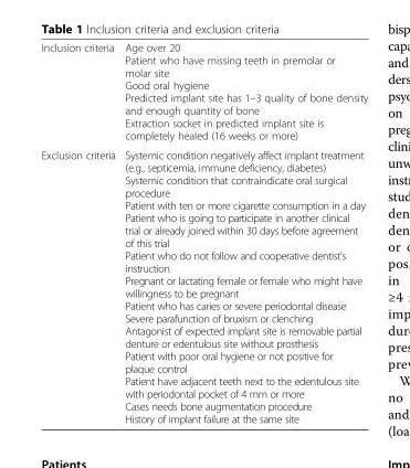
<table><tbody><tr><td>Inclusion criteria</td><td>Age over 20 Patient who have missing teeth in premolar or molar site Good oral hygiene Predicted implant site has 1–3 quality of bone density and enough quantity of bone Extraction socket in predicted implant site is completely healed (16 weeks or more)</td></tr><tr><td>Exclusion criteria</td><td>Systemic condition negatively affect implant treatment (e.g., septicemia, immune deficiency, diabetes) Systemic condition that contraindicate oral surgical procedure Patient with ten or more cigarette consumption in a day Patient who is going to participate in another clinical trial or already joined within 30 days before agreement of this trial Patient who do not follow and cooperative dentist’s instruction Pregnant or lactating female or female who might have willingness to be pregnant Patient who has caries or severe periodontal disease Severe parafunction of bruxism or clenching Antagonist of expected implant site is removable partial denture or edentulous site without prosthesis Patient with poor oral hygiene or not positive for plaque control Patient have adjacent teeth next to the edentulous site with periodontal pocket of 4 mm or more Cases needs bone augmentation procedure History of implant failure at the same site</td></tr></tbody></table>